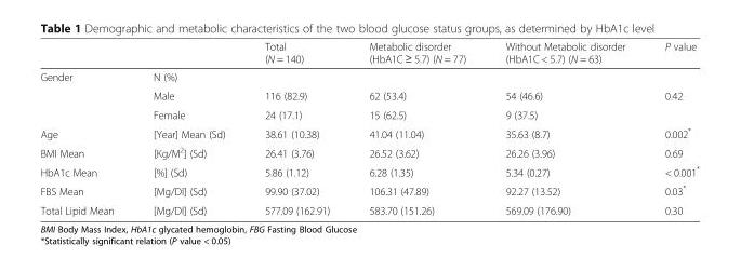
<table><thead><tr><td></td><td></td><td>Total (N = 140)</td><td>Metabolic disorder (HbA1C ≥ 5.7) (N = 77)</td><td>Without Metabolic disorder (HbA1C &lt; 5.7) (N = 63)</td><td>P value</td></tr></thead><tbody><tr><td rowspan="3">Gender</td><td>N (%)</td><td></td><td></td><td></td><td></td></tr><tr><td>Male</td><td>116 (82.9)</td><td>62 (53.4)</td><td>54 (46.6)</td><td>0.42</td></tr><tr><td>Female</td><td>24 (17.1)</td><td>15 (62.5)</td><td>9 (37.5)</td><td></td></tr><tr><td>Age</td><td>[Year] Mean (Sd)</td><td>38.61 (10.38)</td><td>41.04 (11.04)</td><td>35.63 (8.7)</td><td>0.002*</td></tr><tr><td>BMI Mean</td><td>[Kg/M<sup>2</sup>] (Sd)</td><td>26.41 (3.76)</td><td>26.52 (3.62)</td><td>26.26 (3.96)</td><td>0.69</td></tr><tr><td>HbA1c Mean</td><td>[%] (Sd)</td><td>5.86 (1.12)</td><td>6.28 (1.35)</td><td>5.34 (0.27)</td><td>&lt; 0.001*</td></tr><tr><td>FBS Mean</td><td>[Mg/Dl] (Sd)</td><td>99.90 (37.02)</td><td>106.31 (47.89)</td><td>92.27 (13.52)</td><td>0.03*</td></tr><tr><td>Total Lipid Mean</td><td>[Mg/Dl] (Sd)</td><td>577.09 (162.91)</td><td>583.70 (151.26)</td><td>569.09 (176.90)</td><td>0.30</td></tr></tbody></table>